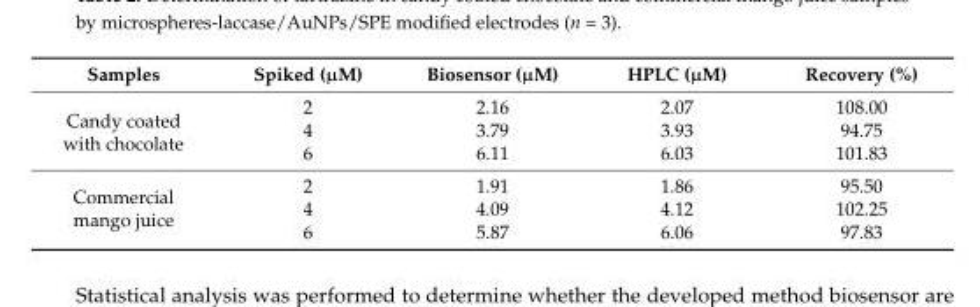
<table><thead><tr><td>Samples</td><td>Spiked (µM)</td><td>Biosensor (µM)</td><td>HPLC (µM)</td><td>Recovery (%)</td></tr></thead><tbody><tr><td rowspan="3">Candy coated with chocolate</td><td>2</td><td>2.16</td><td>2.07</td><td>108.00</td></tr><tr><td>4</td><td>3.79</td><td>3.93</td><td>94.75</td></tr><tr><td>6</td><td>6.11</td><td>6.03</td><td>101.83</td></tr><tr><td rowspan="3">Commercial mango juice</td><td>2</td><td>1.91</td><td>1.86</td><td>95.50</td></tr><tr><td>4</td><td>4.09</td><td>4.12</td><td>102.25</td></tr><tr><td>6</td><td>5.87</td><td>6.06</td><td>97.83</td></tr></tbody></table>